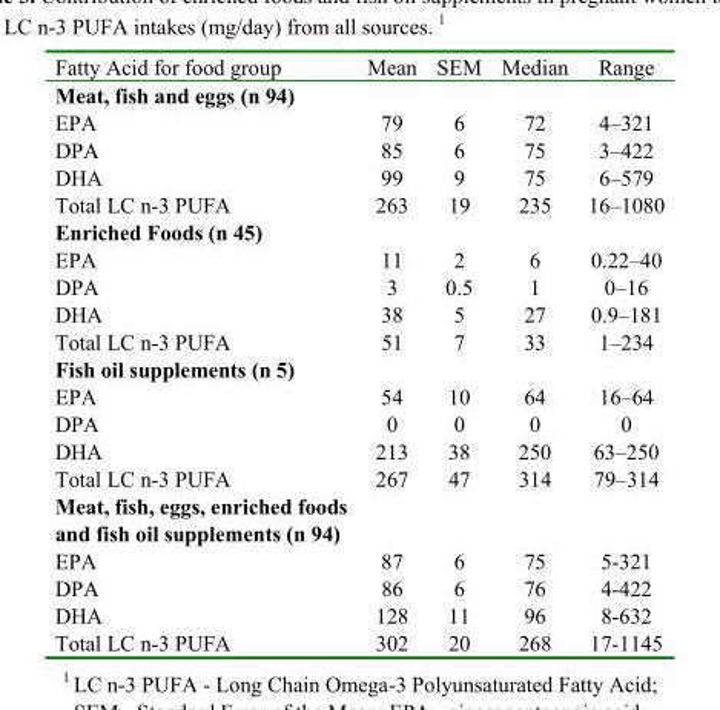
<table><thead><tr><td>Fatty Acid for food group</td><td>Mean</td><td>SEM</td><td>Median</td><td>Range</td></tr></thead><tbody><tr><td colspan="5">Meat, fish and eggs (n 94)</td></tr><tr><td>EPA</td><td>79</td><td>6</td><td>72</td><td>4–321</td></tr><tr><td>DPA</td><td>85</td><td>6</td><td>75</td><td>3–422</td></tr><tr><td>DHA</td><td>99</td><td>9</td><td>75</td><td>6–579</td></tr><tr><td>Total LC n-3 PUFA</td><td>263</td><td>19</td><td>235</td><td>16–1080</td></tr><tr><td colspan="5">Enriched Foods (n 45)</td></tr><tr><td>EPA</td><td>11</td><td>2</td><td>6</td><td>0.22–40</td></tr><tr><td>DPA</td><td>3</td><td>0.5</td><td>1</td><td>0–16</td></tr><tr><td>DHA</td><td>38</td><td>5</td><td>27</td><td>0.9–181</td></tr><tr><td>Total LC n-3 PUFA</td><td>51</td><td>7</td><td>33</td><td>1–234</td></tr><tr><td colspan="5">Fish oil supplements (n 5)</td></tr><tr><td>EPA</td><td>54</td><td>10</td><td>64</td><td>16–64</td></tr><tr><td>DPA</td><td>0</td><td>0</td><td>0</td><td>0</td></tr><tr><td>DHA</td><td>213</td><td>38</td><td>250</td><td>63–250</td></tr><tr><td>Total LC n-3 PUFA</td><td>267</td><td>47</td><td>314</td><td>79–314</td></tr><tr><td colspan="5">Meat, fish, eggs, enriched foods and fish oil supplements (n 94)</td></tr><tr><td>EPA</td><td>87</td><td>6</td><td>75</td><td>5-321</td></tr><tr><td>DPA</td><td>86</td><td>6</td><td>76</td><td>4-422</td></tr><tr><td>DHA</td><td>128</td><td>11</td><td>96</td><td>8-632</td></tr><tr><td>Total LC n-3 PUFA</td><td>302</td><td>20</td><td>268</td><td>17-1145</td></tr></tbody></table>